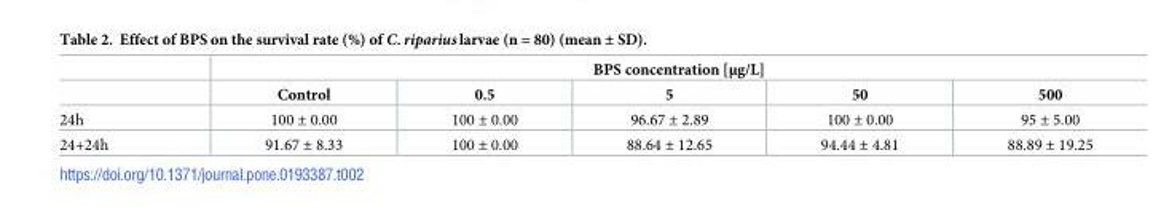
<table><thead><tr><td rowspan="2"></td><td colspan="5">BPS concentration [μg/L]</td></tr><tr><td>Control</td><td>0.5</td><td>5</td><td>50</td><td>500</td></tr></thead><tbody><tr><td>24h</td><td>100 ± 0.00</td><td>100 ± 0.00</td><td>96.67 ± 2.89</td><td>100 ± 0.00</td><td>95 ± 5.00</td></tr><tr><td>24+24h</td><td>91.67 ± 8.33</td><td>100 ± 0.00</td><td>88.64 ± 12.65</td><td>94.44 ± 4.81</td><td>88.89 ± 19.25</td></tr></tbody></table>